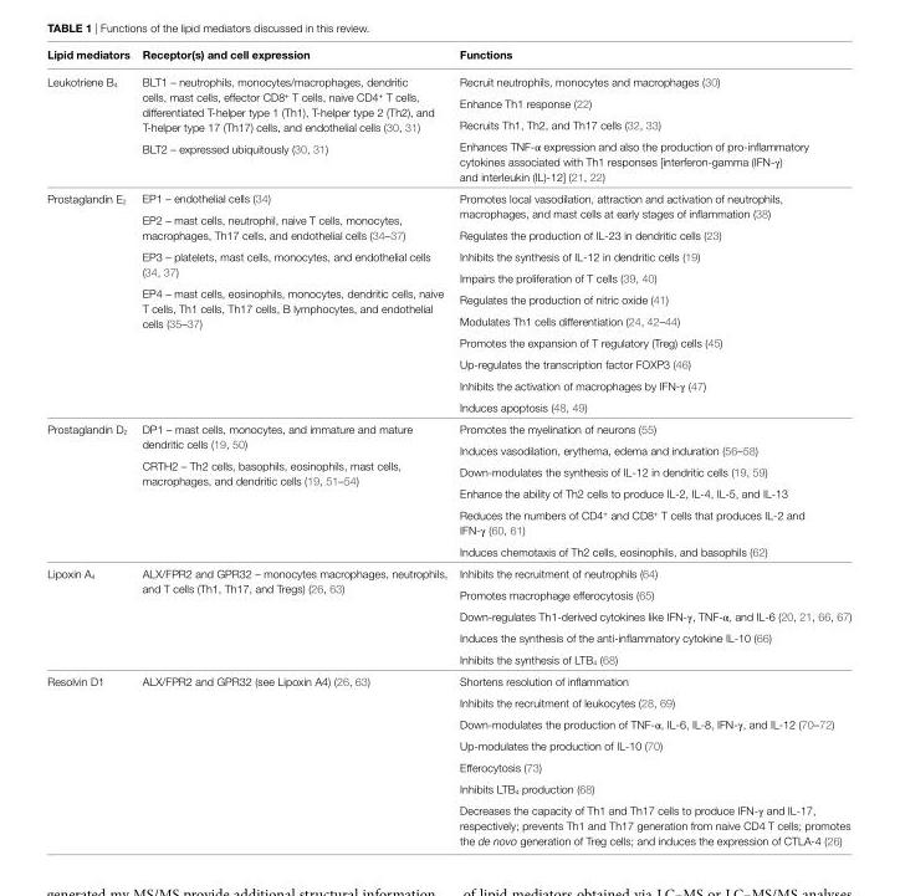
<table><thead><tr><td>Lipid mediators</td><td>Receptor(s) and cell expression</td><td>Functions</td></tr></thead><tbody><tr><td>Leukotriene B<sub>4</sub></td><td>BLT1 – neutrophils, monocytes/macrophages, dendritic cells, mast cells, effector CD8<sup>+</sup> T cells, naive CD4<sup>+</sup> T cells, differentiated T-helper type 1 (Th1), T-helper type 2 (Th2), and T-helper type 17 (Th17) cells, and endothelial cells (30, 31) BLT2 – expressed ubiquitously (30, 31)</td><td>Recruit neutrophils, monocytes and macrophages (30) Enhance Th1 response (22) Recruits Th1, Th2, and Th17 cells (32, 33) Enhances TNF-α expression and also the production of pro-inflammatory cytokines associated with Th1 responses [interferon-gamma (IFN-γ) and interleukin (IL)-12] (21, 22)</td></tr><tr><td>Prostaglandin E<sub>2</sub></td><td>EP1 – endothelial cells (34) EP2 – mast cells, neutrophil, naive T cells, monocytes, macrophages, Th17 cells, and endothelial cells (34–37) EP3 – platelets, mast cells, monocytes, and endothelial cells (34, 37) EP4 – mast cells, eosinophils, monocytes, dendritic cells, naive T cells, Th1 cells, Th17 cells, B lymphocytes, and endothelial cells (35–37)</td><td>Promotes local vasodilation, attraction and activation of neutrophils, macrophages, and mast cells at early stages of inflammation (38) Regulates the production of IL-23 in dendritic cells (23) Inhibits the synthesis of IL-12 in dendritic cells (19) Impairs the proliferation of T cells (39, 40) Regulates the production of nitric oxide (41) Modulates Th1 cells differentiation (24, 42–44) Promotes the expansion of T regulatory (Treg) cells (45) Up-regulates the transcription factor FOXP3 (46) Inhibits the activation of macrophages by IFN-γ (47) Induces apoptosis (48, 49)</td></tr><tr><td>Prostaglandin D<sub>2</sub></td><td>DP1 – mast cells, monocytes, and immature and mature dendritic cells (19, 50) CRTH2 – Th2 cells, basophils, eosinophils, mast cells, macrophages, and dendritic cells (19, 51–54)</td><td>Promotes the myelination of neurons (55) Induces vasodilation, erythema, edema and induration (56–58) Down-modulates the synthesis of IL-12 in dendritic cells (19, 59) Enhance the ability of Th2 cells to produce IL-2, IL-4, IL-5, and IL-13 Reduces the numbers of CD4<sup>+</sup> and CD8<sup>+</sup> T cells that produces IL-2 and IFN-γ (60, 61) Induces chemotaxis of Th2 cells, eosinophils, and basophils (62)</td></tr><tr><td>Lipoxin A<sub>4</sub></td><td>ALX/FPR2 and GPR32 – monocytes macrophages, neutrophils, and T cells (Th1, Th17, and Tregs) (26, 63)</td><td>Inhibits the recruitment of neutrophils (64) Promotes macrophage efferocytosis (65) Down-regulates Th1-derived cytokines like IFN-γ, TNF-α, and IL-6 (20, 21, 66, 67) Induces the synthesis of the anti-inflammatory cytokine IL-10 (66) Inhibits the synthesis of LTB<sub>4</sub> (68)</td></tr><tr><td>Resolvin D1</td><td>ALX/FPR2 and GPR32 (see Lipoxin A4) (26, 63)</td><td>Shortens resolution of inflammation Inhibits the recruitment of leukocytes (28, 69) Down-modulates the production of TNF-α, IL-6, IL-8, IFN-γ, and IL-12 (70–72) Up-modulates the production of IL-10 (70) Efferocytosis (73) Inhibits LTB<sub>4</sub> production (68) Decreases the capacity of Th1 and Th17 cells to produce IFN-γ and IL-17, respectively; prevents Th1 and Th17 generation from naive CD4 T cells; promotes the de novo generation of Treg cells; and induces the expression of CTLA-4 (26)</td></tr></tbody></table>